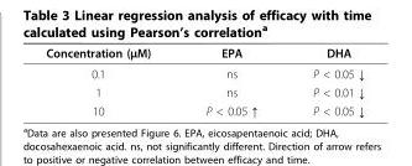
<table><thead><tr><td>Concentration (μM)</td><td>EPA</td><td>DHA</td></tr></thead><tbody><tr><td>0.1</td><td>ns</td><td>P &lt; 0.05 ↓</td></tr><tr><td>1</td><td>ns</td><td>P &lt; 0.01 ↓</td></tr><tr><td>10</td><td>P &lt; 0.05 ↑</td><td>P &lt; 0.05 ↓</td></tr></tbody></table>